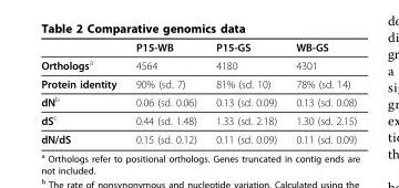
<table><thead><tr><td></td><td>P15-WB</td><td>P15-GS</td><td>WB-GS</td></tr></thead><tbody><tr><td>Orthologs<sup>a</sup></td><td>4564</td><td>4180</td><td>4301</td></tr><tr><td>Protein identity</td><td>90% (sd. 7)</td><td>81% (sd. 10)</td><td>78% (sd. 14)</td></tr><tr><td>dN<sup>b</sup></td><td>0.06 (sd. 0.06)</td><td>0.13 (sd. 0.09)</td><td>0.13 (sd. 0.08)</td></tr><tr><td>dS<sup>c</sup></td><td>0.44 (sd. 1.48)</td><td>1.33 (sd. 2.18)</td><td>1.30 (sd. 2.15)</td></tr><tr><td>dN/dS</td><td>0.15 (sd. 0.12)</td><td>0.11 (sd. 0.09)</td><td>0.11 (sd. 0.09)</td></tr></tbody></table>